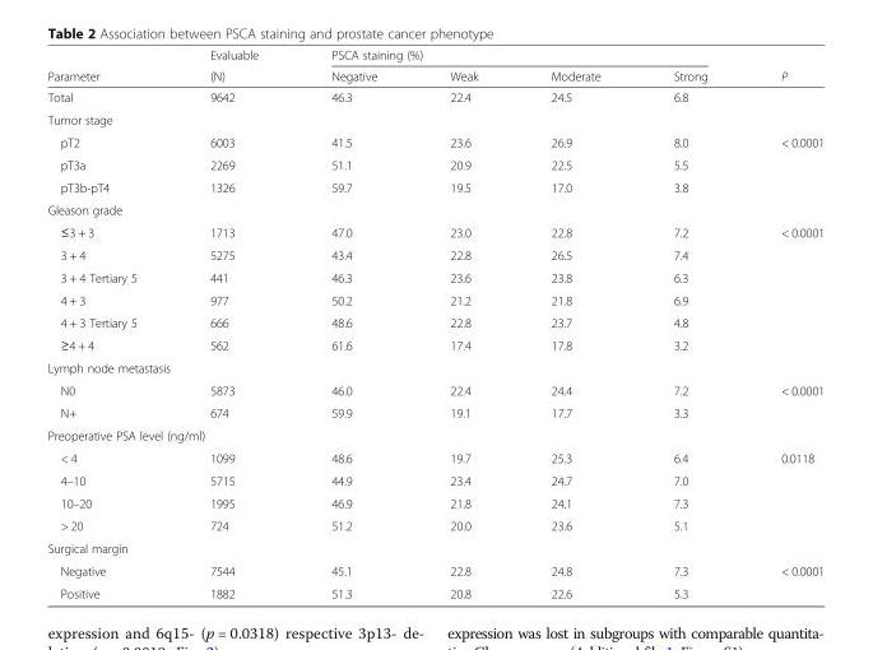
<table><thead><tr><td rowspan="2">Parameter</td><td rowspan="2">Evaluable (N)</td><td colspan="4">PSCA staining (%)</td><td rowspan="2">P</td></tr><tr><td>Negative</td><td>Weak</td><td>Moderate</td><td>Strong</td></tr></thead><tbody><tr><td>Total</td><td>9642</td><td>46.3</td><td>22.4</td><td>24.5</td><td>6.8</td><td></td></tr><tr><td colspan="7">Tumor stage</td></tr><tr><td>pT2</td><td>6003</td><td>41.5</td><td>23.6</td><td>26.9</td><td>8.0</td><td rowspan="3">&lt; 0.0001</td></tr><tr><td>pT3a</td><td>2269</td><td>51.1</td><td>20.9</td><td>22.5</td><td>5.5</td></tr><tr><td>pT3b-pT4</td><td>1326</td><td>59.7</td><td>19.5</td><td>17.0</td><td>3.8</td></tr><tr><td colspan="7">Gleason grade</td></tr><tr><td>≤3 + 3</td><td>1713</td><td>47.0</td><td>23.0</td><td>22.8</td><td>7.2</td><td rowspan="6">&lt; 0.0001</td></tr><tr><td>3 + 4</td><td>5275</td><td>43.4</td><td>22.8</td><td>26.5</td><td>7.4</td></tr><tr><td>3 + 4 Tertiary 5</td><td>441</td><td>46.3</td><td>23.6</td><td>23.8</td><td>6.3</td></tr><tr><td>4 + 3</td><td>977</td><td>50.2</td><td>21.2</td><td>21.8</td><td>6.9</td></tr><tr><td>4 + 3 Tertiary 5</td><td>666</td><td>48.6</td><td>22.8</td><td>23.7</td><td>4.8</td></tr><tr><td>≥4 + 4</td><td>562</td><td>61.6</td><td>17.4</td><td>17.8</td><td>3.2</td></tr><tr><td colspan="7">Lymph node metastasis</td></tr><tr><td>N0</td><td>5873</td><td>46.0</td><td>22.4</td><td>24.4</td><td>7.2</td><td rowspan="2">&lt; 0.0001</td></tr><tr><td>N+</td><td>674</td><td>59.9</td><td>19.1</td><td>17.7</td><td>3.3</td></tr><tr><td colspan="7">Preoperative PSA level (ng/ml)</td></tr><tr><td>&lt; 4</td><td>1099</td><td>48.6</td><td>19.7</td><td>25.3</td><td>6.4</td><td rowspan="4">0.0118</td></tr><tr><td>4–10</td><td>5715</td><td>44.9</td><td>23.4</td><td>24.7</td><td>7.0</td></tr><tr><td>10–20</td><td>1995</td><td>46.9</td><td>21.8</td><td>24.1</td><td>7.3</td></tr><tr><td>&gt; 20</td><td>724</td><td>51.2</td><td>20.0</td><td>23.6</td><td>5.1</td></tr><tr><td colspan="7">Surgical margin</td></tr><tr><td>Negative</td><td>7544</td><td>45.1</td><td>22.8</td><td>24.8</td><td>7.3</td><td rowspan="2">&lt; 0.0001</td></tr><tr><td>Positive</td><td>1882</td><td>51.3</td><td>20.8</td><td>22.6</td><td>5.3</td></tr></tbody></table>